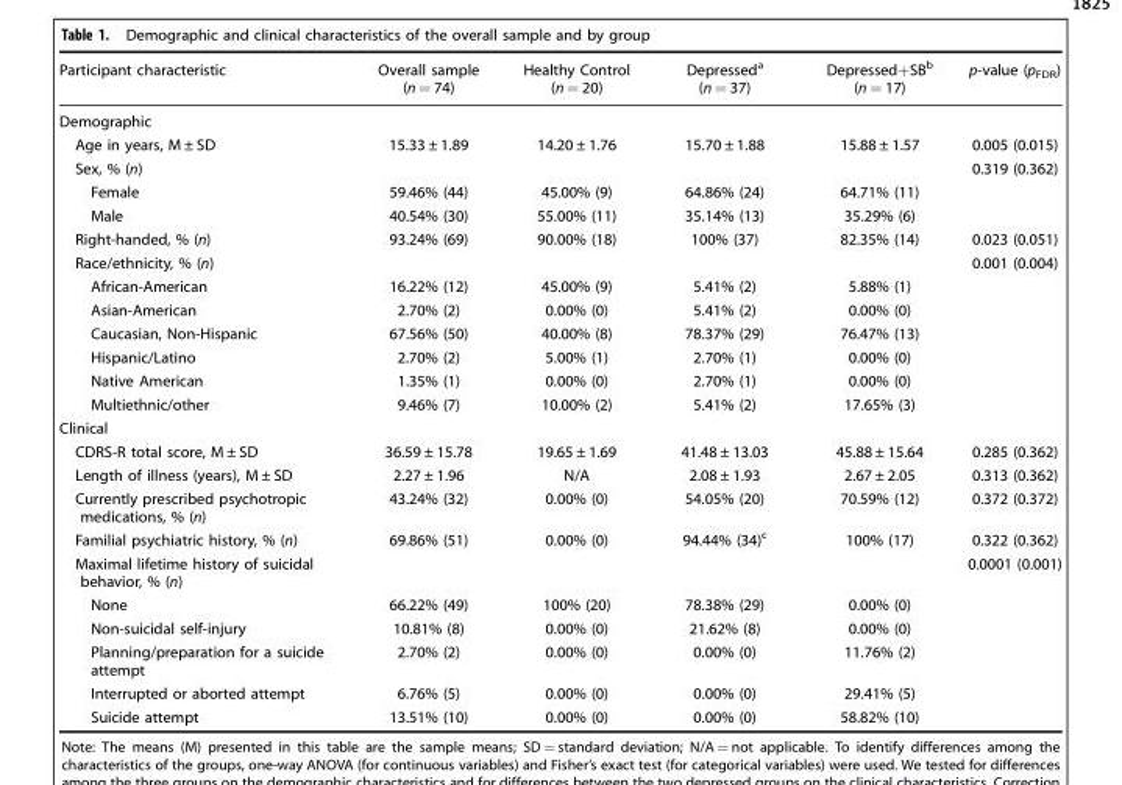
<table><thead><tr><td>Participant characteristic</td><td>Overall sample (n = 74)</td><td>Healthy Control (n = 20)</td><td>Depressed<sup>a</sup> (n = 37)</td><td>Depressed+SB<sup>b</sup> (n = 17)</td><td>p-value (p<sub>FDR</sub>)</td></tr></thead><tbody><tr><td colspan="6">Demographic</td></tr><tr><td>Age in years, M ± SD</td><td>15.33 ± 1.89</td><td>14.20 ± 1.76</td><td>15.70 ± 1.88</td><td>15.88 ± 1.57</td><td>0.005 (0.015)</td></tr><tr><td>Sex, % (n)</td><td></td><td></td><td></td><td></td><td>0.319 (0.362)</td></tr><tr><td>Female</td><td>59.46% (44)</td><td>45.00% (9)</td><td>64.86% (24)</td><td>64.71% (11)</td><td></td></tr><tr><td>Male</td><td>40.54% (30)</td><td>55.00% (11)</td><td>35.14% (13)</td><td>35.29% (6)</td><td></td></tr><tr><td>Right-handed, % (n)</td><td>93.24% (69)</td><td>90.00% (18)</td><td>100% (37)</td><td>82.35% (14)</td><td>0.023 (0.051)</td></tr><tr><td>Race/ethnicity, % (n)</td><td></td><td></td><td></td><td></td><td>0.001 (0.004)</td></tr><tr><td>African-American</td><td>16.22% (12)</td><td>45.00% (9)</td><td>5.41% (2)</td><td>5.88% (1)</td><td></td></tr><tr><td>Asian-American</td><td>2.70% (2)</td><td>0.00% (0)</td><td>5.41% (2)</td><td>0.00% (0)</td><td></td></tr><tr><td>Caucasian, Non-Hispanic</td><td>67.56% (50)</td><td>40.00% (8)</td><td>78.37% (29)</td><td>76.47% (13)</td><td></td></tr><tr><td>Hispanic/Latino</td><td>2.70% (2)</td><td>5.00% (1)</td><td>2.70% (1)</td><td>0.00% (0)</td><td></td></tr><tr><td>Native American</td><td>1.35% (1)</td><td>0.00% (0)</td><td>2.70% (1)</td><td>0.00% (0)</td><td></td></tr><tr><td>Multiethnic/other</td><td>9.46% (7)</td><td>10.00% (2)</td><td>5.41% (2)</td><td>17.65% (3)</td><td></td></tr><tr><td colspan="6">Clinical</td></tr><tr><td>CDRS-R total score, M ± SD</td><td>36.59 ± 15.78</td><td>19.65 ± 1.69</td><td>41.48 ± 13.03</td><td>45.88 ± 15.64</td><td>0.285 (0.362)</td></tr><tr><td>Length of illness (years), M ± SD</td><td>2.27 ± 1.96</td><td>N/A</td><td>2.08 ± 1.93</td><td>2.67 ± 2.05</td><td>0.313 (0.362)</td></tr><tr><td>Currently prescribed psychotropic medications, % (n)</td><td>43.24% (32)</td><td>0.00% (0)</td><td>54.05% (20)</td><td>70.59% (12)</td><td>0.372 (0.372)</td></tr><tr><td>Familial psychiatric history, % (n)</td><td>69.86% (51)</td><td>0.00% (0)</td><td>94.44% (34)<sup>c</sup></td><td>100% (17)</td><td>0.322 (0.362)</td></tr><tr><td>Maximal lifetime history of suicidal behavior, % (n)</td><td></td><td></td><td></td><td></td><td>0.0001 (0.001)</td></tr><tr><td>None</td><td>66.22% (49)</td><td>100% (20)</td><td>78.38% (29)</td><td>0.00% (0)</td><td></td></tr><tr><td>Non-suicidal self-injury</td><td>10.81% (8)</td><td>0.00% (0)</td><td>21.62% (8)</td><td>0.00% (0)</td><td></td></tr><tr><td>Planning/preparation for a suicide attempt</td><td>2.70% (2)</td><td>0.00% (0)</td><td>0.00% (0)</td><td>11.76% (2)</td><td></td></tr><tr><td>Interrupted or aborted attempt</td><td>6.76% (5)</td><td>0.00% (0)</td><td>0.00% (0)</td><td>29.41% (5)</td><td></td></tr><tr><td>Suicide attempt</td><td>13.51% (10)</td><td>0.00% (0)</td><td>0.00% (0)</td><td>58.82% (10)</td><td></td></tr></tbody></table>